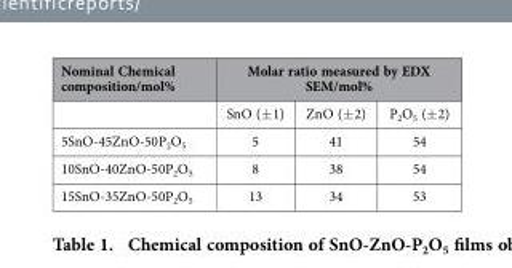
<table><thead><tr><td rowspan="2">Nominal Chemical composition/mol%</td><td colspan="3">Molar ratio measured by EDX SEM/mol%</td></tr><tr><td>SnO (± 1)</td><td>ZnO (± 2)</td><td>P<sub>2</sub>O<sub>5</sub> (± 2)</td></tr></thead><tbody><tr><td>5SnO-45ZnO-50P<sub>2</sub>O<sub>5</sub></td><td>5</td><td>41</td><td>54</td></tr><tr><td>10SnO-40ZnO-50P<sub>2</sub>O<sub>5</sub></td><td>8</td><td>38</td><td>54</td></tr><tr><td>15SnO-35ZnO-50P<sub>2</sub>O<sub>5</sub></td><td>13</td><td>34</td><td>53</td></tr></tbody></table>